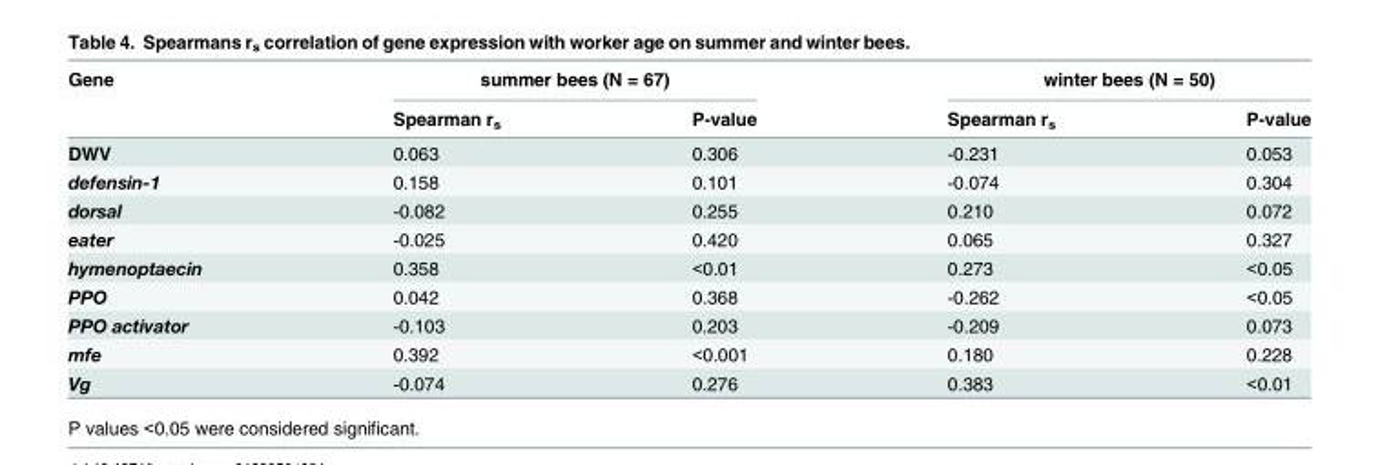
<table><thead><tr><td rowspan="2">Gene</td><td colspan="2">summer bees (N = 67)</td><td colspan="2">winter bees (N = 50)</td></tr><tr><td>Spearman r<sub>s</sub></td><td>P-value</td><td>Spearman r<sub>s</sub></td><td>P-value</td></tr></thead><tbody><tr><td>DWV</td><td>0.063</td><td>0.306</td><td>-0.231</td><td>0.053</td></tr><tr><td>defensin-1</td><td>0.158</td><td>0.101</td><td>-0.074</td><td>0.304</td></tr><tr><td>dorsal</td><td>-0.082</td><td>0.255</td><td>0.210</td><td>0.072</td></tr><tr><td>eater</td><td>-0.025</td><td>0.420</td><td>0.065</td><td>0.327</td></tr><tr><td>hymenoptaecin</td><td>0.358</td><td>&lt;0.01</td><td>0.273</td><td>&lt;0.05</td></tr><tr><td>PPO</td><td>0.042</td><td>0.368</td><td>-0.262</td><td>&lt;0.05</td></tr><tr><td>PPO activator</td><td>-0.103</td><td>0.203</td><td>-0.209</td><td>0.073</td></tr><tr><td>mfe</td><td>0.392</td><td>&lt;0.001</td><td>0.180</td><td>0.228</td></tr><tr><td>Vg</td><td>-0.074</td><td>0.276</td><td>0.383</td><td>&lt;0.01</td></tr></tbody></table>